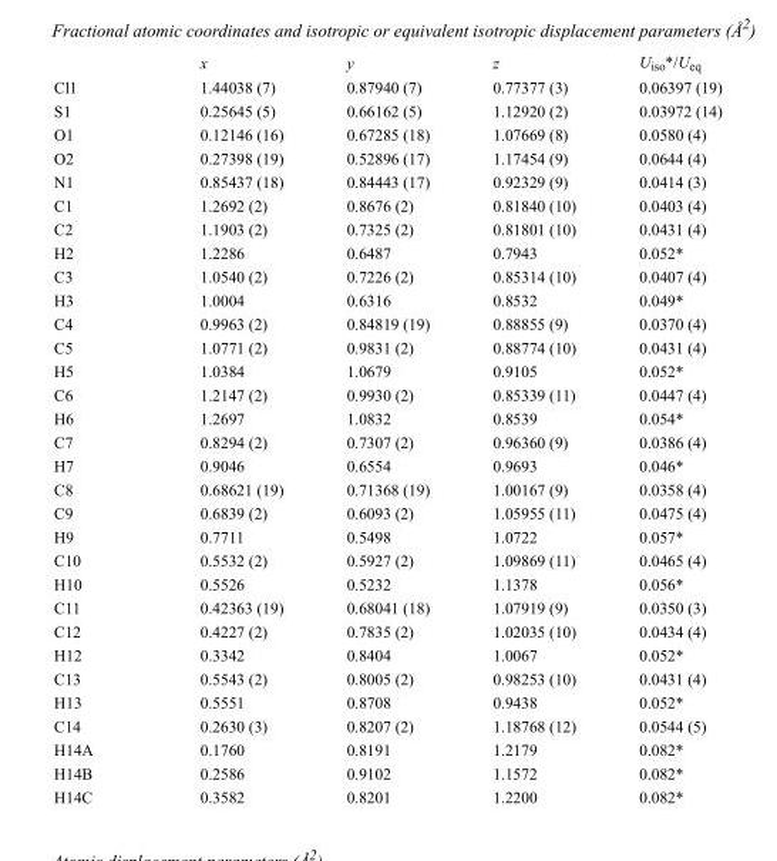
<table><thead><tr><td></td><td>x</td><td>y</td><td>z</td><td>U<sub>iso</sub>*/U<sub>eq</sub></td></tr></thead><tbody><tr><td>Cl1</td><td>1.44038 (7)</td><td>0.87940 (7)</td><td>0.77377 (3)</td><td>0.06397 (19)</td></tr><tr><td>S1</td><td>0.25645 (5)</td><td>0.66162 (5)</td><td>1.12920 (2)</td><td>0.03972 (14)</td></tr><tr><td>O1</td><td>0.12146 (16)</td><td>0.67285 (18)</td><td>1.07669 (8)</td><td>0.0580 (4)</td></tr><tr><td>O2</td><td>0.27398 (19)</td><td>0.52896 (17)</td><td>1.17454 (9)</td><td>0.0644 (4)</td></tr><tr><td>N1</td><td>0.85437 (18)</td><td>0.84443 (17)</td><td>0.92329 (9)</td><td>0.0414 (3)</td></tr><tr><td>C1</td><td>1.2692 (2)</td><td>0.8676 (2)</td><td>0.81840 (10)</td><td>0.0403 (4)</td></tr><tr><td>C2</td><td>1.1903 (2)</td><td>0.7325 (2)</td><td>0.81801 (10)</td><td>0.0431 (4)</td></tr><tr><td>H2</td><td>1.2286</td><td>0.6487</td><td>0.7943</td><td>0.052*</td></tr><tr><td>C3</td><td>1.0540 (2)</td><td>0.7226 (2)</td><td>0.85314 (10)</td><td>0.0407 (4)</td></tr><tr><td>H3</td><td>1.0004</td><td>0.6316</td><td>0.8532</td><td>0.049*</td></tr><tr><td>C4</td><td>0.9963 (2)</td><td>0.84819 (19)</td><td>0.88855 (9)</td><td>0.0370 (4)</td></tr><tr><td>C5</td><td>1.0771 (2)</td><td>0.9831 (2)</td><td>0.88774 (10)</td><td>0.0431 (4)</td></tr><tr><td>H5</td><td>1.0384</td><td>1.0679</td><td>0.9105</td><td>0.052*</td></tr><tr><td>C6</td><td>1.2147 (2)</td><td>0.9930 (2)</td><td>0.85339 (11)</td><td>0.0447 (4)</td></tr><tr><td>H6</td><td>1.2697</td><td>1.0832</td><td>0.8539</td><td>0.054*</td></tr><tr><td>C7</td><td>0.8294 (2)</td><td>0.7307 (2)</td><td>0.96360 (9)</td><td>0.0386 (4)</td></tr><tr><td>H7</td><td>0.9046</td><td>0.6554</td><td>0.9693</td><td>0.046*</td></tr><tr><td>C8</td><td>0.68621 (19)</td><td>0.71368 (19)</td><td>1.00167 (9)</td><td>0.0358 (4)</td></tr><tr><td>C9</td><td>0.6839 (2)</td><td>0.6093 (2)</td><td>1.05955 (11)</td><td>0.0475 (4)</td></tr><tr><td>H9</td><td>0.7711</td><td>0.5498</td><td>1.0722</td><td>0.057*</td></tr><tr><td>C10</td><td>0.5532 (2)</td><td>0.5927 (2)</td><td>1.09869 (11)</td><td>0.0465 (4)</td></tr><tr><td>H10</td><td>0.5526</td><td>0.5232</td><td>1.1378</td><td>0.056*</td></tr><tr><td>C11</td><td>0.42363 (19)</td><td>0.68041 (18)</td><td>1.07919 (9)</td><td>0.0350 (3)</td></tr><tr><td>C12</td><td>0.4227 (2)</td><td>0.7835 (2)</td><td>1.02035 (10)</td><td>0.0434 (4)</td></tr><tr><td>H12</td><td>0.3342</td><td>0.8404</td><td>1.0067</td><td>0.052*</td></tr><tr><td>C13</td><td>0.5543 (2)</td><td>0.8005 (2)</td><td>0.98253 (10)</td><td>0.0431 (4)</td></tr><tr><td>H13</td><td>0.5551</td><td>0.8708</td><td>0.9438</td><td>0.052*</td></tr><tr><td>C14</td><td>0.2630 (3)</td><td>0.8207 (2)</td><td>1.18768 (12)</td><td>0.0544 (5)</td></tr><tr><td>H14A</td><td>0.1760</td><td>0.8191</td><td>1.2179</td><td>0.082*</td></tr><tr><td>H14B</td><td>0.2586</td><td>0.9102</td><td>1.1572</td><td>0.082*</td></tr><tr><td>H14C</td><td>0.3582</td><td>0.8201</td><td>1.2200</td><td>0.082*</td></tr></tbody></table>